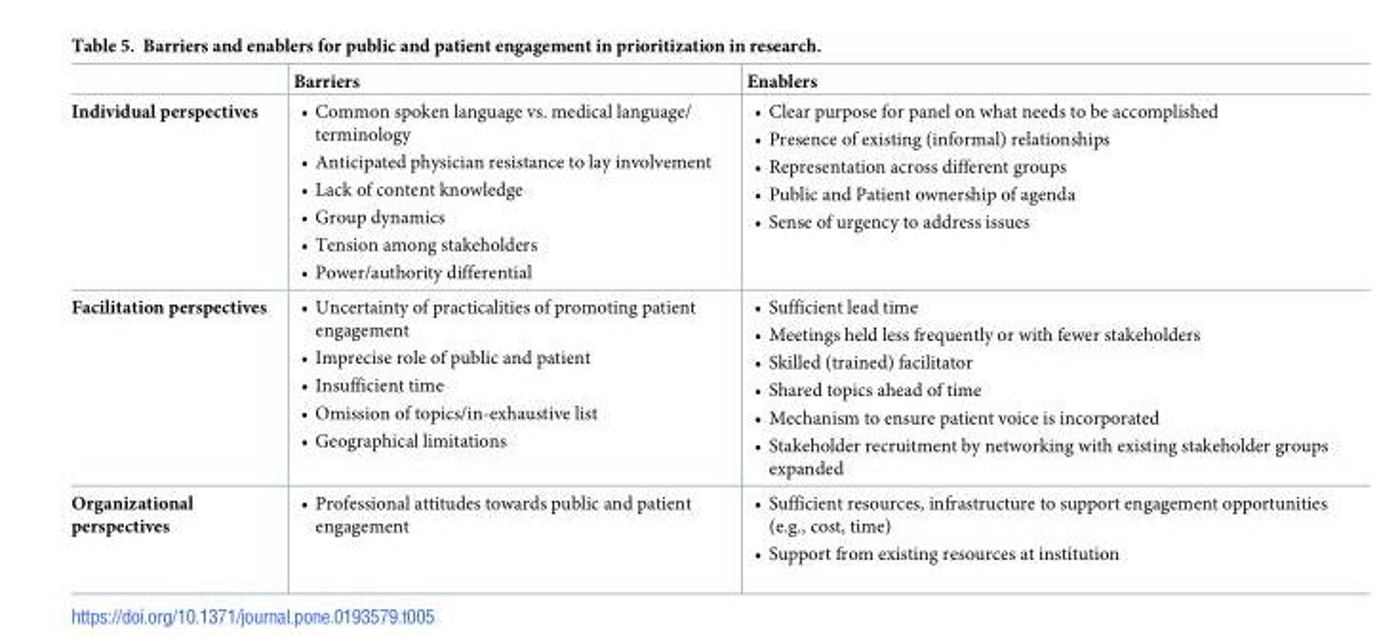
<table><thead><tr><td></td><td>Barriers</td><td>Enablers</td></tr></thead><tbody><tr><td>Individual perspectives</td><td>• Common spoken language vs. medical language/ terminology • Anticipated physician resistance to lay involvement • Lack of content knowledge • Group dynamics • Tension among stakeholders • Power/authority differential</td><td>• Clear purpose for panel on what needs to be accomplished • Presence of existing (informal) relationships • Representation across different groups • Public and Patient ownership of agenda • Sense of urgency to address issues</td></tr><tr><td>Facilitation perspectives</td><td>• Uncertainty of practicalities of promoting patient engagement • Imprecise role of public and patient • Insufficient time • Omission of topics/in-exhaustive list • Geographical limitations</td><td>• Sufficient lead time • Meetings held less frequently or with fewer stakeholders • Skilled (trained) facilitator • Shared topics ahead of time • Mechanism to ensure patient voice is incorporated • Stakeholder recruitment by networking with existing stakeholder groups expanded</td></tr><tr><td>Organizational perspectives</td><td>• Professional attitudes towards public and patient engagement</td><td>• Sufficient resources, infrastructure to support engagement opportunities (e.g., cost, time) • Support from existing resources at institution</td></tr></tbody></table>